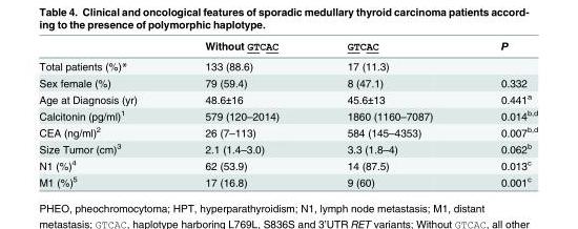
<table><thead><tr><td></td><td>Without GTCAC</td><td>GTCAC</td><td>P</td></tr></thead><tbody><tr><td>Total patients (%)*</td><td>133 (88.6)</td><td>17 (11.3)</td><td></td></tr><tr><td>Sex female (%)</td><td>79 (59.4)</td><td>8 (47.1)</td><td>0.332</td></tr><tr><td>Age at Diagnosis (yr)</td><td>48.6±16</td><td>45.6±13</td><td>0.441<sup>a</sup></td></tr><tr><td>Calcitonin (pg/ml)<sup>1</sup></td><td>579 (120–2014)</td><td>1860 (1160–7087)</td><td>0.014<sup>b,d</sup></td></tr><tr><td>CEA (ng/ml)<sup>2</sup></td><td>26 (7–113)</td><td>584 (145–4353)</td><td>0.007<sup>b,d</sup></td></tr><tr><td>Size Tumor (cm)<sup>3</sup></td><td>2.1 (1.4–3.0)</td><td>3.3 (1.8–4)</td><td>0.062<sup>b</sup></td></tr><tr><td>N1 (%)<sup>4</sup></td><td>62 (53.9)</td><td>14 (87.5)</td><td>0.013<sup>c</sup></td></tr><tr><td>M1 (%)<sup>5</sup></td><td>17 (16.8)</td><td>9 (60)</td><td>0.001<sup>c</sup></td></tr></tbody></table>